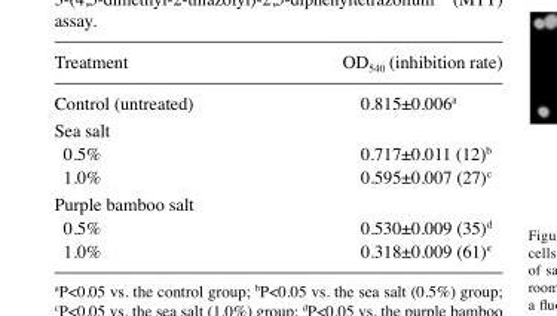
<table><thead><tr><td>Treatment</td><td>OD<sub>540</sub> (inhibition rate)</td></tr></thead><tbody><tr><td>Control (untreated)</td><td>0.815±0.006<sup>a</sup></td></tr><tr><td colspan="2">Sea salt</td></tr><tr><td>0.5%</td><td>0.717±0.011 (12)<sup>b</sup></td></tr><tr><td>1.0%</td><td>0.595±0.007 (27)<sup>c</sup></td></tr><tr><td colspan="2">Purple bamboo salt</td></tr><tr><td>0.5%</td><td>0.530±0.009 (35)<sup>d</sup></td></tr><tr><td>1.0%</td><td>0.318±0.009 (61)<sup>e</sup></td></tr></tbody></table>